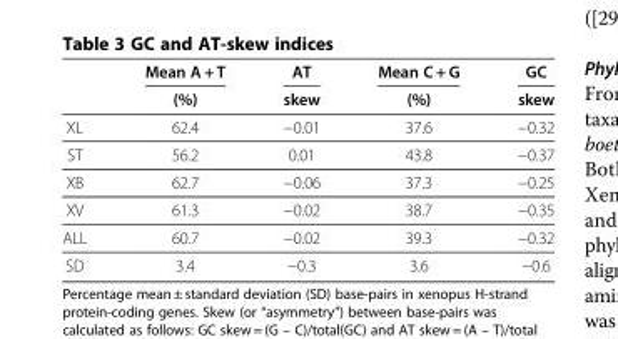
<table><thead><tr><td rowspan="2"></td><td rowspan="2">Mean A + T (%)</td><td rowspan="2">AT skew</td><td rowspan="2">Mean C + G (%)</td><td rowspan="2">GC skew</td></tr><tr></tr></thead><tbody><tr><td>XL</td><td>62.4</td><td>−0.01</td><td>37.6</td><td>−0.32</td></tr><tr><td>ST</td><td>56.2</td><td>0.01</td><td>43.8</td><td>−0.37</td></tr><tr><td>XB</td><td>62.7</td><td>−0.06</td><td>37.3</td><td>−0.25</td></tr><tr><td>XV</td><td>61.3</td><td>−0.02</td><td>38.7</td><td>−0.35</td></tr><tr><td>ALL</td><td>60.7</td><td>−0.02</td><td>39.3</td><td>−0.32</td></tr><tr><td>SD</td><td>3.4</td><td>−0.3</td><td>3.6</td><td>−0.6</td></tr></tbody></table>